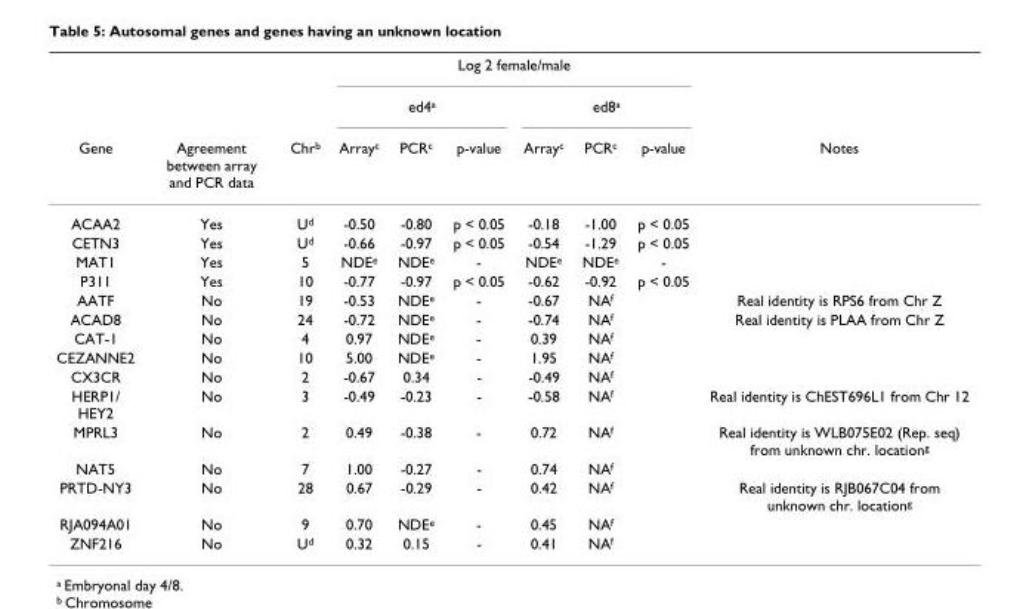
<table><thead><tr><td rowspan="3">Gene</td><td rowspan="3">Agreement between array and PCR data</td><td rowspan="3">Chrb</td><td colspan="6">Log 2 female/male</td><td rowspan="3">Notes</td></tr><tr><td colspan="3">ed4a</td><td colspan="3">ed8a</td></tr><tr><td>Arrayc</td><td>PCRc</td><td>p-value</td><td>Arrayc</td><td>PCRc</td><td>p-value</td></tr></thead><tbody><tr><td>ACAA2</td><td>Yes</td><td>Ud</td><td>-0.50</td><td>-0.80</td><td>p &lt; 0.05</td><td>-0.18</td><td>-1.00</td><td>p &lt; 0.05</td><td></td></tr><tr><td>CETN3</td><td>Yes</td><td>Ud</td><td>-0.66</td><td>-0.97</td><td>p &lt; 0.05</td><td>-0.54</td><td>-1.29</td><td>p &lt; 0.05</td><td></td></tr><tr><td>MAT1</td><td>Yes</td><td>5</td><td>NDEe</td><td>NDEe</td><td>-</td><td>NDEe</td><td>NDEe</td><td>-</td><td></td></tr><tr><td>P311</td><td>Yes</td><td>10</td><td>-0.77</td><td>-0.97</td><td>p &lt; 0.05</td><td>-0.62</td><td>-0.92</td><td>p &lt; 0.05</td><td></td></tr><tr><td>AATF</td><td>No</td><td>19</td><td>-0.53</td><td>NDEe</td><td>-</td><td>-0.67</td><td>NAf</td><td></td><td>Real identity is RPS6 from Chr Z</td></tr><tr><td>ACAD8</td><td>No</td><td>24</td><td>-0.72</td><td>NDEe</td><td>-</td><td>-0.74</td><td>NAf</td><td></td><td>Real identity is PLAA from Chr Z</td></tr><tr><td>CAT-1</td><td>No</td><td>4</td><td>0.97</td><td>NDEe</td><td>-</td><td>0.39</td><td>NAf</td><td></td><td></td></tr><tr><td>CEZANNE2</td><td>No</td><td>10</td><td>5.00</td><td>NDEe</td><td>-</td><td>1.95</td><td>NAf</td><td></td><td></td></tr><tr><td>CX3CR</td><td>No</td><td>2</td><td>-0.67</td><td>0.34</td><td>-</td><td>-0.49</td><td>NAf</td><td></td><td></td></tr><tr><td>HERP1/ HEY2</td><td>No</td><td>3</td><td>-0.49</td><td>-0.23</td><td>-</td><td>-0.58</td><td>NAf</td><td></td><td>Real identity is ChEST696L1 from Chr 12</td></tr><tr><td>MPRL3</td><td>No</td><td>2</td><td>0.49</td><td>-0.38</td><td>-</td><td>0.72</td><td>NAf</td><td></td><td>Real identity is WLB075E02 (Rep. seq) from unknown chr. locationg</td></tr><tr><td>NAT5</td><td>No</td><td>7</td><td>1.00</td><td>-0.27</td><td>-</td><td>0.74</td><td>NAf</td><td></td><td></td></tr><tr><td>PRTD-NY3</td><td>No</td><td>28</td><td>0.67</td><td>-0.29</td><td>-</td><td>0.42</td><td>NAf</td><td></td><td>Real identity is RJB067C04 from unknown chr. locationg</td></tr><tr><td>RJA094A01</td><td>No</td><td>9</td><td>0.70</td><td>NDEe</td><td>-</td><td>0.45</td><td>NAf</td><td></td><td></td></tr><tr><td>ZNF216</td><td>No</td><td>Ud</td><td>0.32</td><td>0.15</td><td>-</td><td>0.41</td><td>NAf</td><td></td><td></td></tr></tbody></table>